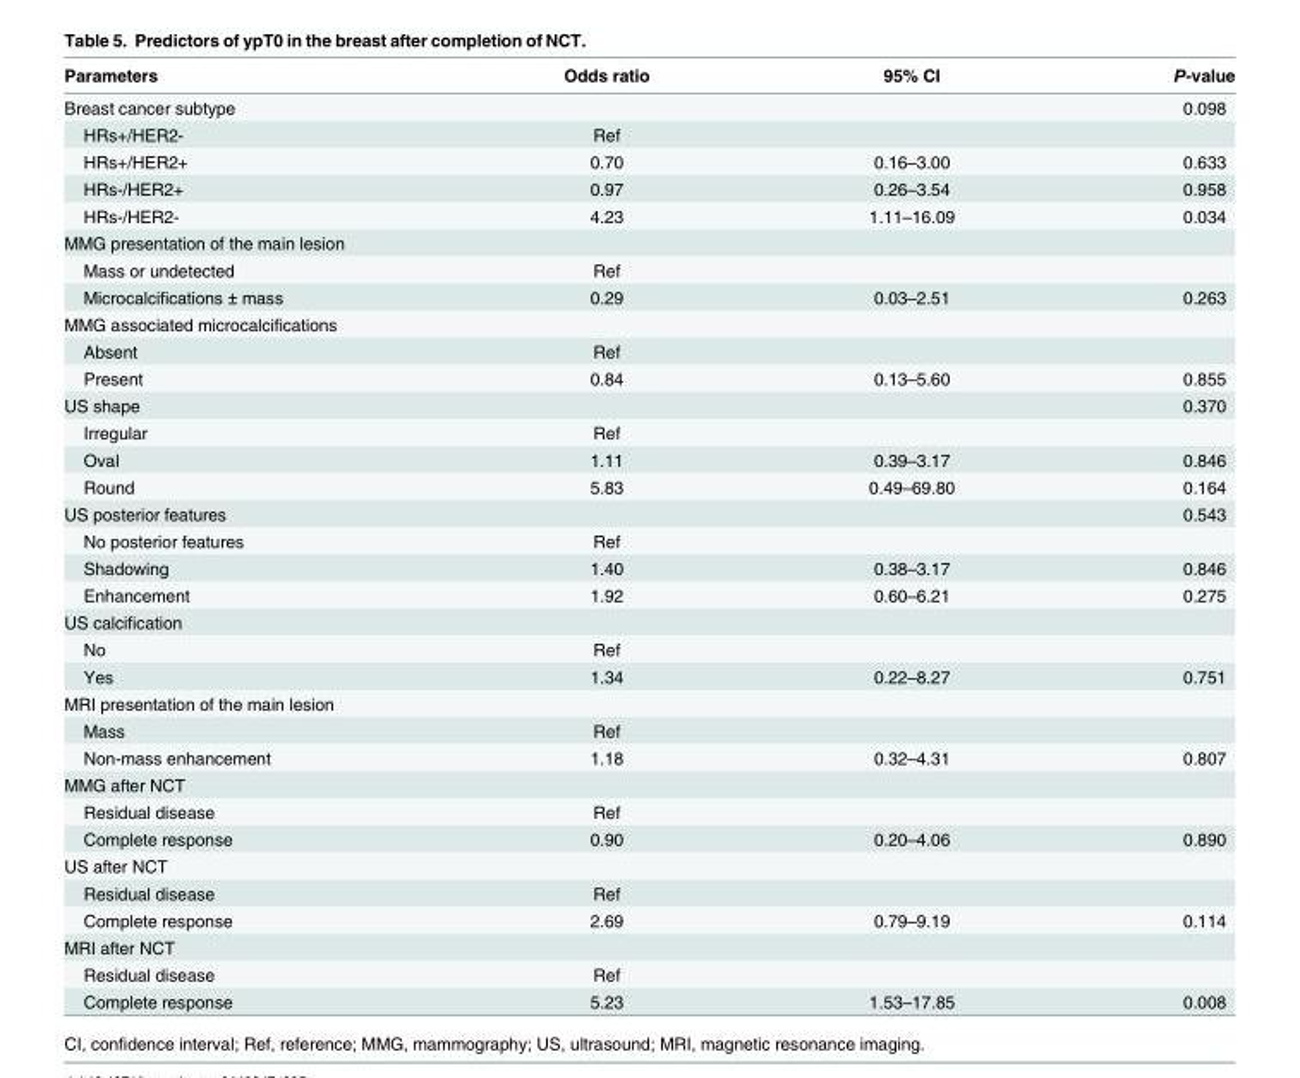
<table><thead><tr><td>Parameters</td><td>Odds ratio</td><td>95% CI</td><td>P-value</td></tr></thead><tbody><tr><td>Breast cancer subtype</td><td></td><td></td><td>0.098</td></tr><tr><td>HRs+/HER2-</td><td>Ref</td><td></td><td></td></tr><tr><td>HRs+/HER2+</td><td>0.70</td><td>0.16–3.00</td><td>0.633</td></tr><tr><td>HRs-/HER2+</td><td>0.97</td><td>0.26–3.54</td><td>0.958</td></tr><tr><td>HRs-/HER2-</td><td>4.23</td><td>1.11–16.09</td><td>0.034</td></tr><tr><td colspan="4">MMG presentation of the main lesion</td></tr><tr><td>Mass or undetected</td><td>Ref</td><td></td><td></td></tr><tr><td>Microcalcifications ± mass</td><td>0.29</td><td>0.03–2.51</td><td>0.263</td></tr><tr><td colspan="4">MMG associated microcalcifications</td></tr><tr><td>Absent</td><td>Ref</td><td></td><td></td></tr><tr><td>Present</td><td>0.84</td><td>0.13–5.60</td><td>0.855</td></tr><tr><td>US shape</td><td></td><td></td><td>0.370</td></tr><tr><td>Irregular</td><td>Ref</td><td></td><td></td></tr><tr><td>Oval</td><td>1.11</td><td>0.39–3.17</td><td>0.846</td></tr><tr><td>Round</td><td>5.83</td><td>0.49–69.80</td><td>0.164</td></tr><tr><td>US posterior features</td><td></td><td></td><td>0.543</td></tr><tr><td>No posterior features</td><td>Ref</td><td></td><td></td></tr><tr><td>Shadowing</td><td>1.40</td><td>0.38–3.17</td><td>0.846</td></tr><tr><td>Enhancement</td><td>1.92</td><td>0.60–6.21</td><td>0.275</td></tr><tr><td colspan="4">US calcification</td></tr><tr><td>No</td><td>Ref</td><td></td><td></td></tr><tr><td>Yes</td><td>1.34</td><td>0.22–8.27</td><td>0.751</td></tr><tr><td colspan="4">MRI presentation of the main lesion</td></tr><tr><td>Mass</td><td>Ref</td><td></td><td></td></tr><tr><td>Non-mass enhancement</td><td>1.18</td><td>0.32–4.31</td><td>0.807</td></tr><tr><td colspan="4">MMG after NCT</td></tr><tr><td>Residual disease</td><td>Ref</td><td></td><td></td></tr><tr><td>Complete response</td><td>0.90</td><td>0.20–4.06</td><td>0.890</td></tr><tr><td colspan="4">US after NCT</td></tr><tr><td>Residual disease</td><td>Ref</td><td></td><td></td></tr><tr><td>Complete response</td><td>2.69</td><td>0.79–9.19</td><td>0.114</td></tr><tr><td colspan="4">MRI after NCT</td></tr><tr><td>Residual disease</td><td>Ref</td><td></td><td></td></tr><tr><td>Complete response</td><td>5.23</td><td>1.53–17.85</td><td>0.008</td></tr></tbody></table>